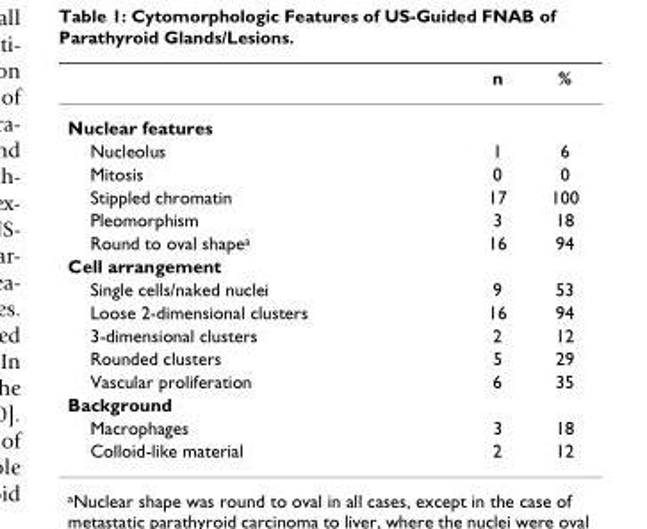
<table><thead><tr><td></td><td>n</td><td>%</td></tr></thead><tbody><tr><td colspan="3">Nuclear features</td></tr><tr><td>Nucleolus</td><td>1</td><td>6</td></tr><tr><td>Mitosis</td><td>0</td><td>0</td></tr><tr><td>Stippled chromatin</td><td>17</td><td>100</td></tr><tr><td>Pleomorphism</td><td>3</td><td>18</td></tr><tr><td>Round to oval shape<sup>a</sup></td><td>16</td><td>94</td></tr><tr><td colspan="3">Cell arrangement</td></tr><tr><td>Single cells/naked nuclei</td><td>9</td><td>53</td></tr><tr><td>Loose 2-dimensional clusters</td><td>16</td><td>94</td></tr><tr><td>3-dimensional clusters</td><td>2</td><td>12</td></tr><tr><td>Rounded clusters</td><td>5</td><td>29</td></tr><tr><td>Vascular proliferation</td><td>6</td><td>35</td></tr><tr><td colspan="3">Background</td></tr><tr><td>Macrophages</td><td>3</td><td>18</td></tr><tr><td>Colloid-like material</td><td>2</td><td>12</td></tr></tbody></table>